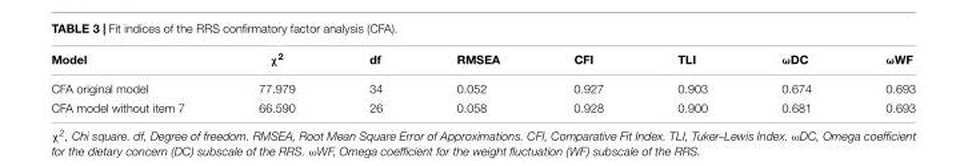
<table><thead><tr><td>Model</td><td>χ<sup>2</sup></td><td>df</td><td>RMSEA</td><td>CFI</td><td>TLI</td><td>ωDC</td><td>ωWF</td></tr></thead><tbody><tr><td>CFA original model</td><td>77.979</td><td>34</td><td>0.052</td><td>0.927</td><td>0.903</td><td>0.674</td><td>0.693</td></tr><tr><td>CFA model without item 7</td><td>66.590</td><td>26</td><td>0.058</td><td>0.928</td><td>0.900</td><td>0.681</td><td>0.693</td></tr></tbody></table>